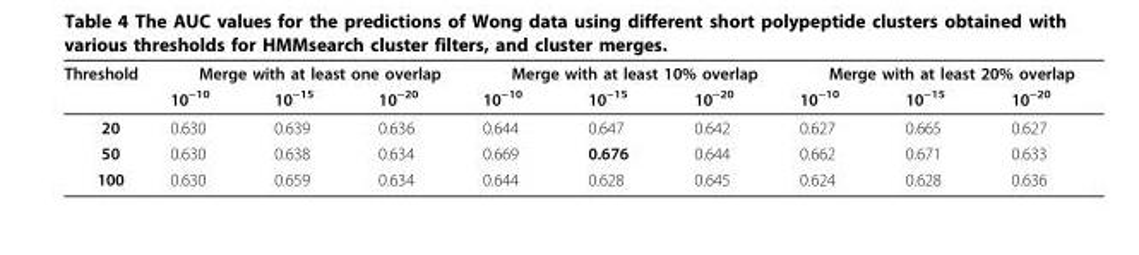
<table><thead><tr><td rowspan="2">Threshold</td><td colspan="3">Merge with at least one overlap</td><td colspan="3">Merge with at least 10% overlap</td><td colspan="3">Merge with at least 20% overlap</td></tr><tr><td>10<sup>−10</sup></td><td>10<sup>−15</sup></td><td>10<sup>−20</sup></td><td>10<sup>−10</sup></td><td>10<sup>−15</sup></td><td>10<sup>−20</sup></td><td>10<sup>−10</sup></td><td>10<sup>−15</sup></td><td>10<sup>−20</sup></td></tr></thead><tbody><tr><td>20</td><td>0.630</td><td>0.639</td><td>0.636</td><td>0.644</td><td>0.647</td><td>0.642</td><td>0.627</td><td>0.665</td><td>0.627</td></tr><tr><td>50</td><td>0.630</td><td>0.638</td><td>0.634</td><td>0.669</td><td>0.676</td><td>0.644</td><td>0.662</td><td>0.671</td><td>0.633</td></tr><tr><td>100</td><td>0.630</td><td>0.659</td><td>0.634</td><td>0.644</td><td>0.628</td><td>0.645</td><td>0.624</td><td>0.628</td><td>0.636</td></tr></tbody></table>